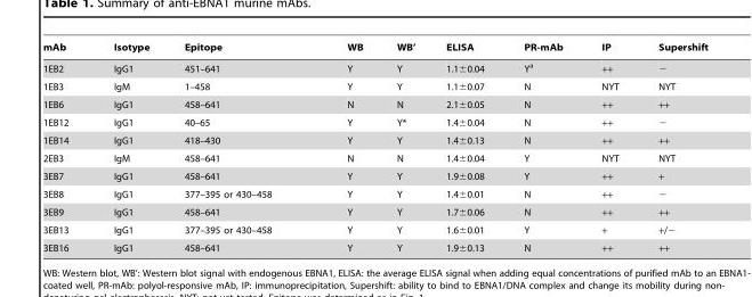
<table><thead><tr><td>mAb</td><td>Isotype</td><td>Epitope</td><td>WB</td><td>WB’</td><td>ELISA</td><td>PR-mAb</td><td>IP</td><td>Supershift</td></tr></thead><tbody><tr><td>1EB2</td><td>IgG1</td><td>451–641</td><td>Y</td><td>Y</td><td>1.1±0.04</td><td>Y<sup>a</sup></td><td>++</td><td>−</td></tr><tr><td>1EB3</td><td>IgM</td><td>1–458</td><td>Y</td><td>Y</td><td>1.1±0.07</td><td>N</td><td>NYT</td><td>NYT</td></tr><tr><td>1EB6</td><td>IgG1</td><td>458–641</td><td>N</td><td>N</td><td>2.1±0.05</td><td>N</td><td>++</td><td>++</td></tr><tr><td>1EB12</td><td>IgG1</td><td>40–65</td><td>Y</td><td>Y*</td><td>1.4±0.04</td><td>N</td><td>++</td><td>−</td></tr><tr><td>1EB14</td><td>IgG1</td><td>418–430</td><td>Y</td><td>Y</td><td>1.4±0.13</td><td>N</td><td>++</td><td>++</td></tr><tr><td>2EB3</td><td>IgM</td><td>458–641</td><td>N</td><td>N</td><td>1.4±0.04</td><td>Y</td><td>NYT</td><td>NYT</td></tr><tr><td>3EB7</td><td>IgG1</td><td>458–641</td><td>Y</td><td>Y</td><td>1.9±0.08</td><td>Y</td><td>++</td><td>+</td></tr><tr><td>3EB8</td><td>IgG1</td><td>377–395 or 430–458</td><td>Y</td><td>Y</td><td>1.4±0.01</td><td>N</td><td>++</td><td>−</td></tr><tr><td>3EB9</td><td>IgG1</td><td>458–641</td><td>Y</td><td>Y</td><td>1.7±0.06</td><td>N</td><td>++</td><td>++</td></tr><tr><td>3EB13</td><td>IgG1</td><td>377–395 or 430–458</td><td>Y</td><td>Y</td><td>1.6±0.01</td><td>Y</td><td>+</td><td>+/−</td></tr><tr><td>3EB16</td><td>IgG1</td><td>458–641</td><td>Y</td><td>Y</td><td>1.9±0.13</td><td>N</td><td>++</td><td>++</td></tr></tbody></table>